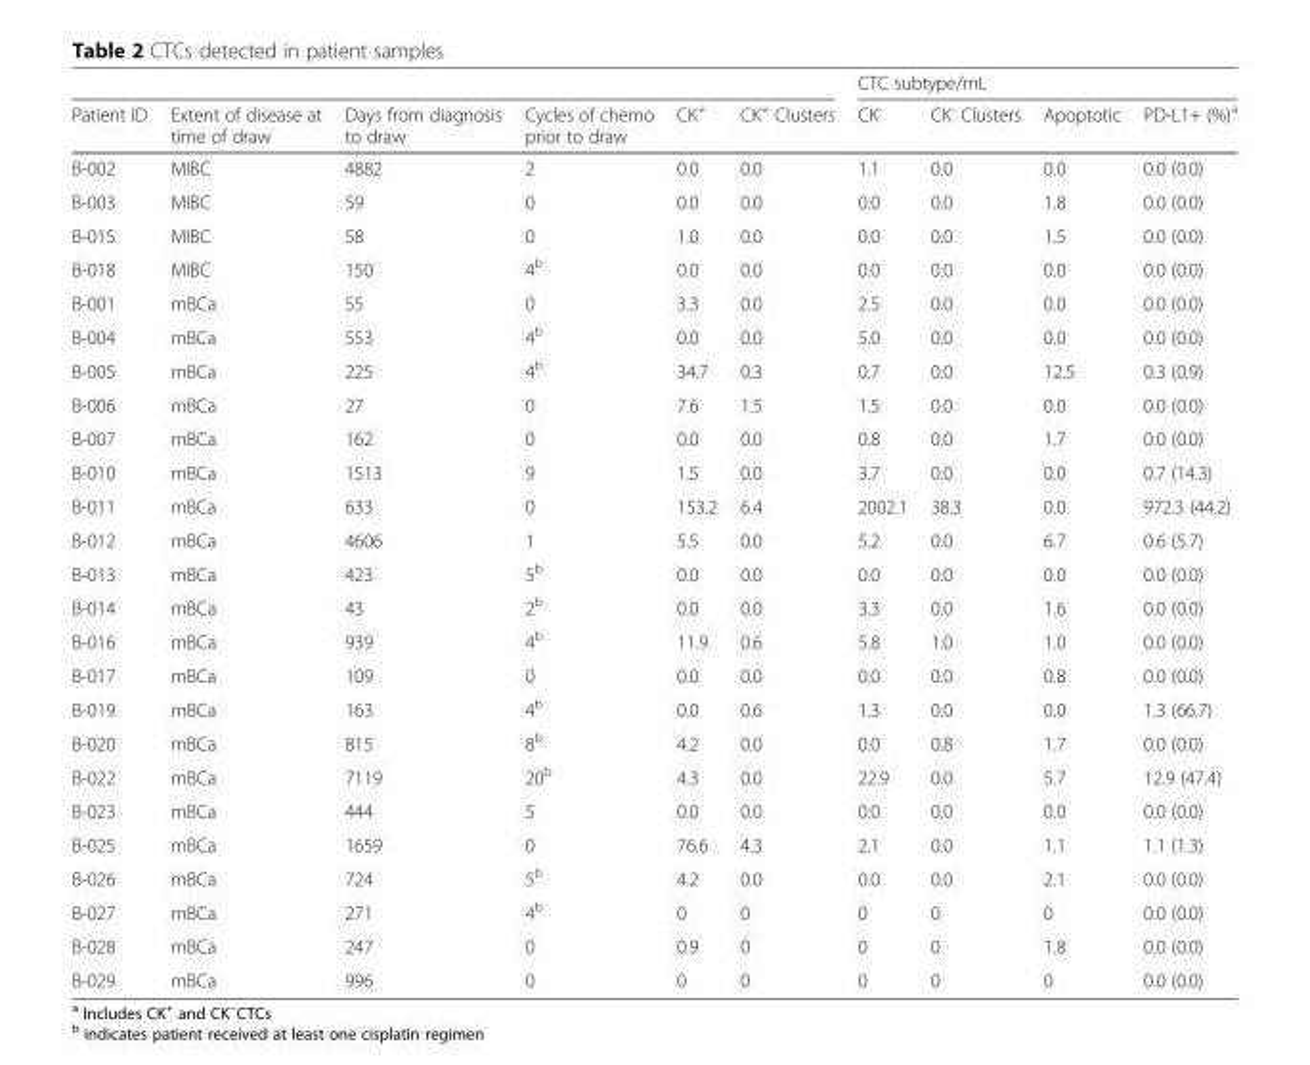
<table><thead><tr><td rowspan="2">Patient ID</td><td rowspan="2">Extent of disease at time of draw</td><td rowspan="2">Days from diagnosis to draw</td><td rowspan="2">Cycles of chemo prior to draw</td><td rowspan="2">CK<sup>+</sup></td><td rowspan="2">CK<sup>+</sup> Clusters</td><td colspan="4">CTC subtype/mL</td></tr><tr><td>CK<sup>-</sup></td><td>CK<sup>-</sup> Clusters</td><td>Apoptotic</td><td>PD-L1+ (%)<sup>a</sup></td></tr></thead><tbody><tr><td>B-002</td><td>MIBC</td><td>4882</td><td>2</td><td>0.0</td><td>0.0</td><td>1.1</td><td>0.0</td><td>0.0</td><td>0.0 (0.0)</td></tr><tr><td>B-003</td><td>MIBC</td><td>59</td><td>0</td><td>0.0</td><td>0.0</td><td>0.0</td><td>0.0</td><td>1.8</td><td>0.0 (0.0)</td></tr><tr><td>B-015</td><td>MIBC</td><td>58</td><td>0</td><td>1.0</td><td>0.0</td><td>0.0</td><td>0.0</td><td>1.5</td><td>0.0 (0.0)</td></tr><tr><td>B-018</td><td>MIBC</td><td>150</td><td>4<sup>b</sup></td><td>0.0</td><td>0.0</td><td>0.0</td><td>0.0</td><td>0.0</td><td>0.0 (0.0)</td></tr><tr><td>B-001</td><td>mBCa</td><td>55</td><td>0</td><td>3.3</td><td>0.0</td><td>2.5</td><td>0.0</td><td>0.0</td><td>0.0 (0.0)</td></tr><tr><td>B-004</td><td>mBCa</td><td>553</td><td>4<sup>b</sup></td><td>0.0</td><td>0.0</td><td>5.0</td><td>0.0</td><td>0.0</td><td>0.0 (0.0)</td></tr><tr><td>B-005</td><td>mBCa</td><td>225</td><td>4<sup>b</sup></td><td>34.7</td><td>0.3</td><td>0.7</td><td>0.0</td><td>12.5</td><td>0.3 (0.9)</td></tr><tr><td>B-006</td><td>mBCa</td><td>27</td><td>0</td><td>7.6</td><td>1.5</td><td>1.5</td><td>0.0</td><td>0.0</td><td>0.0 (0.0)</td></tr><tr><td>B-007</td><td>mBCa</td><td>162</td><td>0</td><td>0.0</td><td>0.0</td><td>0.8</td><td>0.0</td><td>1.7</td><td>0.0 (0.0)</td></tr><tr><td>B-010</td><td>mBCa</td><td>1513</td><td>9</td><td>1.5</td><td>0.0</td><td>3.7</td><td>0.0</td><td>0.0</td><td>0.7 (14.3)</td></tr><tr><td>B-011</td><td>mBCa</td><td>633</td><td>0</td><td>153.2</td><td>6.4</td><td>2002.1</td><td>38.3</td><td>0.0</td><td>972.3 (44.2)</td></tr><tr><td>B-012</td><td>mBCa</td><td>4606</td><td>1</td><td>5.5</td><td>0.0</td><td>5.2</td><td>0.0</td><td>6.7</td><td>0.6 (5.7)</td></tr><tr><td>B-013</td><td>mBCa</td><td>423</td><td>5<sup>b</sup></td><td>0.0</td><td>0.0</td><td>0.0</td><td>0.0</td><td>0.0</td><td>0.0 (0.0)</td></tr><tr><td>B-014</td><td>mBCa</td><td>43</td><td>2<sup>b</sup></td><td>0.0</td><td>0.0</td><td>3.3</td><td>0.0</td><td>1.6</td><td>0.0 (0.0)</td></tr><tr><td>B-016</td><td>mBCa</td><td>939</td><td>4<sup>b</sup></td><td>11.9</td><td>0.6</td><td>5.8</td><td>1.0</td><td>1.0</td><td>0.0 (0.0)</td></tr><tr><td>B-017</td><td>mBCa</td><td>109</td><td>0</td><td>0.0</td><td>0.0</td><td>0.0</td><td>0.0</td><td>0.8</td><td>0.0 (0.0)</td></tr><tr><td>B-019</td><td>mBCa</td><td>163</td><td>4<sup>b</sup></td><td>0.0</td><td>0.6</td><td>1.3</td><td>0.0</td><td>0.0</td><td>1.3 (66.7)</td></tr><tr><td>B-020</td><td>mBCa</td><td>815</td><td>8<sup>b</sup></td><td>4.2</td><td>0.0</td><td>0.0</td><td>0.8</td><td>1.7</td><td>0.0 (0.0)</td></tr><tr><td>B-022</td><td>mBCa</td><td>7119</td><td>20<sup>b</sup></td><td>4.3</td><td>0.0</td><td>22.9</td><td>0.0</td><td>5.7</td><td>12.9 (47.4)</td></tr><tr><td>B-023</td><td>mBCa</td><td>444</td><td>5</td><td>0.0</td><td>0.0</td><td>0.0</td><td>0.0</td><td>0.0</td><td>0.0 (0.0)</td></tr><tr><td>B-025</td><td>mBCa</td><td>1659</td><td>0</td><td>76.6</td><td>4.3</td><td>2.1</td><td>0.0</td><td>1.1</td><td>1.1 (1.3)</td></tr><tr><td>B-026</td><td>mBCa</td><td>724</td><td>5<sup>b</sup></td><td>4.2</td><td>0.0</td><td>0.0</td><td>0.0</td><td>2.1</td><td>0.0 (0.0)</td></tr><tr><td>B-027</td><td>mBCa</td><td>271</td><td>4<sup>b</sup></td><td>0</td><td>0</td><td>0</td><td>0</td><td>0</td><td>0.0 (0.0)</td></tr><tr><td>B-028</td><td>mBCa</td><td>247</td><td>0</td><td>0.9</td><td>0</td><td>0</td><td>0</td><td>1.8</td><td>0.0 (0.0)</td></tr><tr><td>B-029</td><td>mBCa</td><td>996</td><td>0</td><td>0</td><td>0</td><td>0</td><td>0</td><td>0</td><td>0.0 (0.0)</td></tr></tbody></table>